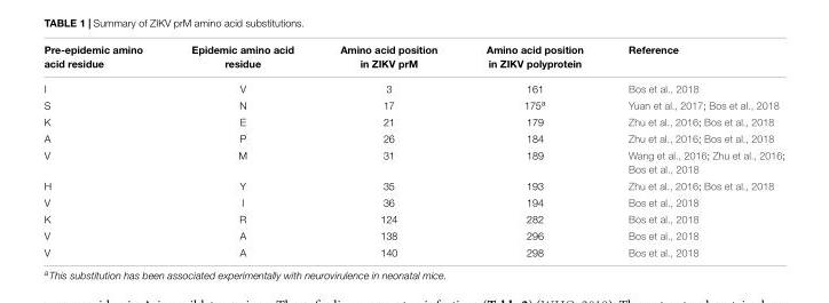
<table><thead><tr><td>Pre-epidemic amino acid residue</td><td>Epidemic amino acid residue</td><td>Amino acid position in ZIKV prM</td><td>Amino acid position in ZIKV polyprotein</td><td>Reference</td></tr></thead><tbody><tr><td>I</td><td>V</td><td>3</td><td>161</td><td>Bos et al., 2018</td></tr><tr><td>S</td><td>N</td><td>17</td><td>175<sup>a</sup></td><td>Yuan et al., 2017; Bos et al., 2018</td></tr><tr><td>K</td><td>E</td><td>21</td><td>179</td><td>Zhu et al., 2016; Bos et al., 2018</td></tr><tr><td>A</td><td>P</td><td>26</td><td>184</td><td>Zhu et al., 2016; Bos et al., 2018</td></tr><tr><td>V</td><td>M</td><td>31</td><td>189</td><td>Wang et al., 2016; Zhu et al., 2016; Bos et al., 2018</td></tr><tr><td>H</td><td>Y</td><td>35</td><td>193</td><td>Zhu et al., 2016; Bos et al., 2018</td></tr><tr><td>V</td><td>I</td><td>36</td><td>194</td><td>Bos et al., 2018</td></tr><tr><td>K</td><td>R</td><td>124</td><td>282</td><td>Bos et al., 2018</td></tr><tr><td>V</td><td>A</td><td>138</td><td>296</td><td>Bos et al., 2018</td></tr><tr><td>V</td><td>A</td><td>140</td><td>298</td><td>Bos et al., 2018</td></tr></tbody></table>